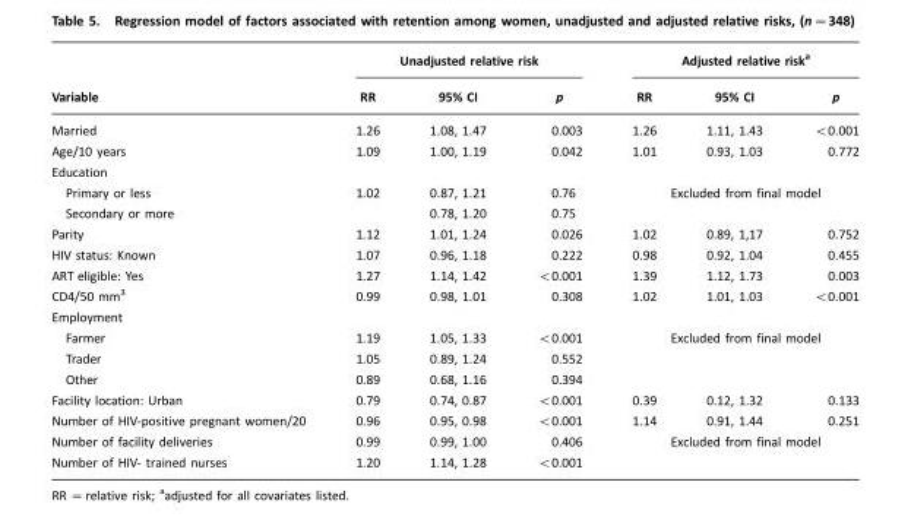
<table><thead><tr><td rowspan="2">Variable</td><td colspan="3">Unadjusted relative risk</td><td colspan="3">Adjusted relative risk<sup>a</sup></td></tr><tr><td>RR</td><td>95% CI</td><td>p</td><td>RR</td><td>95% CI</td><td>p</td></tr></thead><tbody><tr><td>Married</td><td>1.26</td><td>1.08, 1.47</td><td>0.003</td><td>1.26</td><td>1.11, 1.43</td><td>&lt;0.001</td></tr><tr><td>Age/10 years</td><td>1.09</td><td>1.00, 1.19</td><td>0.042</td><td>1.01</td><td>0.93, 1.03</td><td>0.772</td></tr><tr><td colspan="7">Education</td></tr><tr><td>Primary or less</td><td>1.02</td><td>0.87, 1.21</td><td>0.76</td><td colspan="3">Excluded from final model</td></tr><tr><td>Secondary or more</td><td></td><td>0.78, 1.20</td><td>0.75</td><td></td><td></td><td></td></tr><tr><td>Parity</td><td>1.12</td><td>1.01, 1.24</td><td>0.026</td><td>1.02</td><td>0.89, 1,17</td><td>0.752</td></tr><tr><td>HIV status: Known</td><td>1.07</td><td>0.96, 1.18</td><td>0.222</td><td>0.98</td><td>0.92, 1.04</td><td>0.455</td></tr><tr><td>ART eligible: Yes</td><td>1.27</td><td>1.14, 1.42</td><td>&lt;0.001</td><td>1.39</td><td>1.12, 1.73</td><td>0.003</td></tr><tr><td>CD4/50 mm<sup>3</sup></td><td>0.99</td><td>0.98, 1.01</td><td>0.308</td><td>1.02</td><td>1.01, 1.03</td><td>&lt;0.001</td></tr><tr><td colspan="7">Employment</td></tr><tr><td>Farmer</td><td>1.19</td><td>1.05, 1.33</td><td>&lt;0.001</td><td colspan="3">Excluded from final model</td></tr><tr><td>Trader</td><td>1.05</td><td>0.89, 1.24</td><td>0.552</td><td></td><td></td><td></td></tr><tr><td>Other</td><td>0.89</td><td>0.68, 1.16</td><td>0.394</td><td></td><td></td><td></td></tr><tr><td>Facility location: Urban</td><td>0.79</td><td>0.74, 0.87</td><td>&lt;0.001</td><td>0.39</td><td>0.12, 1.32</td><td>0.133</td></tr><tr><td>Number of HIV-positive pregnant women/20</td><td>0.96</td><td>0.95, 0.98</td><td>&lt;0.001</td><td>1.14</td><td>0.91, 1.44</td><td>0.251</td></tr><tr><td>Number of facility deliveries</td><td>0.99</td><td>0.99, 1.00</td><td>0.406</td><td colspan="3">Excluded from final model</td></tr><tr><td>Number of HIV- trained nurses</td><td>1.20</td><td>1.14, 1.28</td><td>&lt;0.001</td><td></td><td></td><td></td></tr></tbody></table>